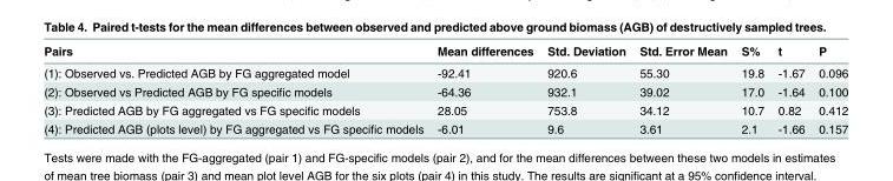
<table><thead><tr><td>Pairs</td><td>Mean differences</td><td>Std. Deviation</td><td>Std. Error Mean</td><td>S%</td><td>t</td><td>P</td></tr></thead><tbody><tr><td>(1): Observed vs. Predicted AGB by FG aggregated model</td><td>-92.41</td><td>920.6</td><td>55.30</td><td>19.8</td><td>-1.67</td><td>0.096</td></tr><tr><td>(2): Observed vs Predicted AGB by FG specific models</td><td>-64.36</td><td>932.1</td><td>39.02</td><td>17.0</td><td>-1.64</td><td>0.100</td></tr><tr><td>(3): Predicted AGB by FG aggregated vs FG specific models</td><td>28.05</td><td>753.8</td><td>34.12</td><td>10.7</td><td>0.82</td><td>0.412</td></tr><tr><td>(4): Predicted AGB (plots level) by FG aggregated vs FG specific models</td><td>-6.01</td><td>9.6</td><td>3.61</td><td>2.1</td><td>-1.66</td><td>0.157</td></tr></tbody></table>